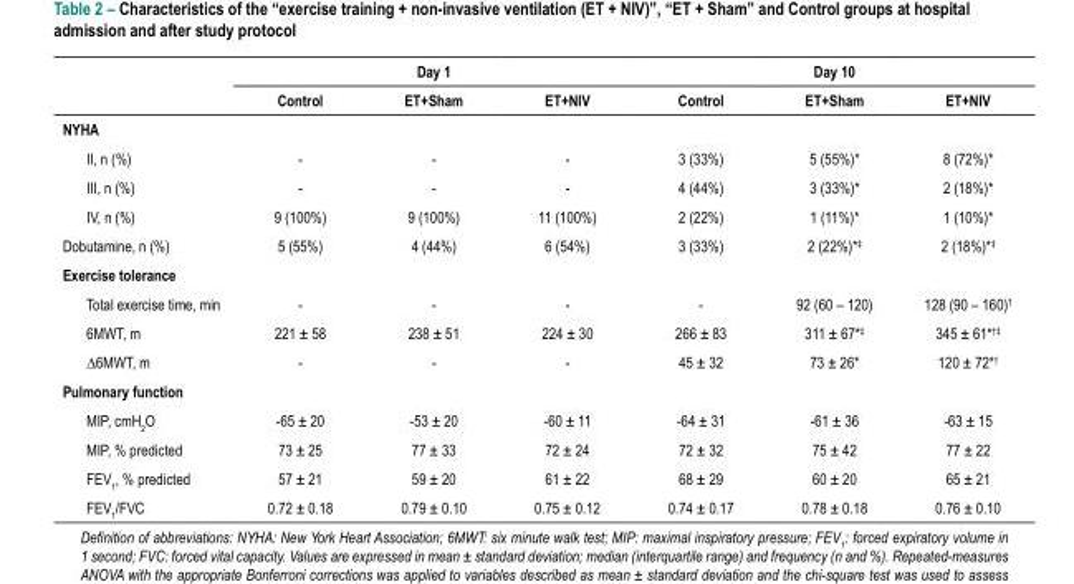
<table><thead><tr><td rowspan="2"></td><td colspan="3">Day 1</td><td colspan="3">Day 10</td></tr><tr><td>Control</td><td>ET+Sham</td><td>ET+NIV</td><td>Control</td><td>ET+Sham</td><td>ET+NIV</td></tr></thead><tbody><tr><td colspan="7">NYHA</td></tr><tr><td>II, n (%)</td><td>-</td><td>-</td><td>-</td><td>3 (33%)</td><td>5 (55%)*</td><td>8 (72%)*</td></tr><tr><td>III, n (%)</td><td>-</td><td>-</td><td>-</td><td>4 (44%)</td><td>3 (33%)*</td><td>2 (18%)*</td></tr><tr><td>IV, n (%)</td><td>9 (100%)</td><td>9 (100%)</td><td>11 (100%)</td><td>2 (22%)</td><td>1 (11%)*</td><td>1 (10%)*</td></tr><tr><td>Dobutamine, n (%)</td><td>5 (55%)</td><td>4 (44%)</td><td>6 (54%)</td><td>3 (33%)</td><td>2 (22%)*<sup>‡</sup></td><td>2 (18%)*<sup>‡</sup></td></tr><tr><td colspan="7">Exercise tolerance</td></tr><tr><td>Total exercise time, min</td><td>-</td><td>-</td><td>-</td><td>-</td><td>92 (60 – 120)</td><td>128 (90 – 160)<sup>†</sup></td></tr><tr><td>6MWT, m</td><td>221 ± 58</td><td>238 ± 51</td><td>224 ± 30</td><td>266 ± 83</td><td>311 ± 67*<sup>‡</sup></td><td>345 ± 61*<sup>†‡</sup></td></tr><tr><td>∆6MWT, m</td><td>-</td><td>-</td><td>-</td><td>45 ± 32</td><td>73 ± 26*</td><td>120 ± 72*<sup>†</sup></td></tr><tr><td colspan="7">Pulmonary function</td></tr><tr><td>MIP, cmH<sub>2</sub>O</td><td>-65 ± 20</td><td>-53 ± 20</td><td>-60 ± 11</td><td>-64 ± 31</td><td>-61 ± 36</td><td>-63 ± 15</td></tr><tr><td>MIP, % predicted</td><td>73 ± 25</td><td>77 ± 33</td><td>72 ± 24</td><td>72 ± 32</td><td>75 ± 42</td><td>77 ± 22</td></tr><tr><td>FEV<sub>1</sub>, % predicted</td><td>57 ± 21</td><td>59 ± 20</td><td>61 ± 22</td><td>68 ± 29</td><td>60 ± 20</td><td>65 ± 21</td></tr><tr><td>FEV<sub>1</sub>/FVC</td><td>0.72 ± 0.18</td><td>0.79 ± 0.10</td><td>0.75 ± 0.12</td><td>0.74 ± 0.17</td><td>0.78 ± 0.18</td><td>0.76 ± 0.10</td></tr></tbody></table>